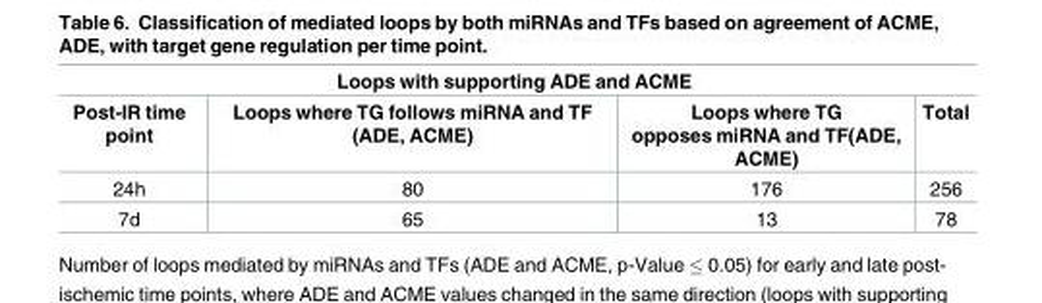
<table><thead><tr><td colspan="4">Loops with supporting ADE and ACME</td></tr><tr><td>Post-IR time point</td><td>Loops where TG follows miRNA and TF (ADE, ACME)</td><td>Loops where TG opposes miRNA and TF(ADE, ACME)</td><td>Total</td></tr></thead><tbody><tr><td>24h</td><td>80</td><td>176</td><td>256</td></tr><tr><td>7d</td><td>65</td><td>13</td><td>78</td></tr></tbody></table>